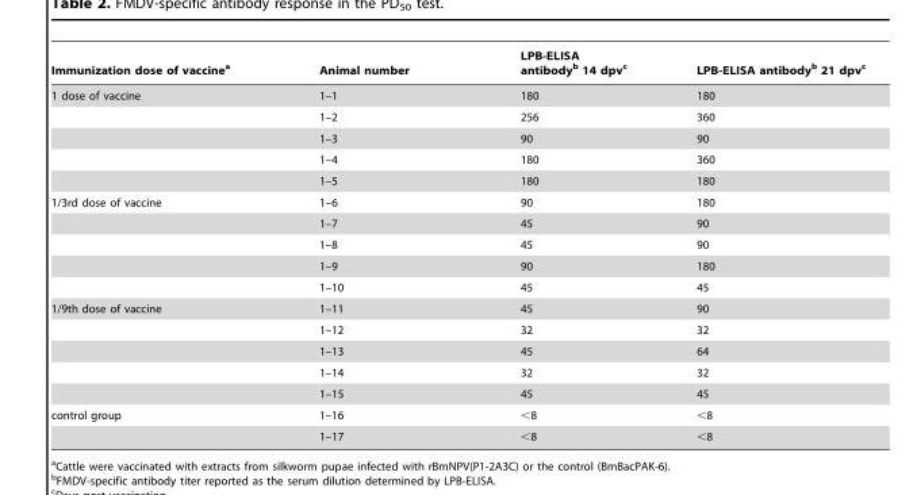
<table><thead><tr><td>Immunization dose of vaccine<sup>a</sup></td><td>Animal number</td><td>LPB-ELISA antibody<sup>b</sup> 14 dpv<sup>c</sup></td><td>LPB-ELISA antibody<sup>b</sup> 21 dpv<sup>c</sup></td></tr></thead><tbody><tr><td rowspan="5">1 dose of vaccine</td><td>1–1</td><td>180</td><td>180</td></tr><tr><td>1–2</td><td>256</td><td>360</td></tr><tr><td>1–3</td><td>90</td><td>90</td></tr><tr><td>1–4</td><td>180</td><td>360</td></tr><tr><td>1–5</td><td>180</td><td>180</td></tr><tr><td rowspan="5">1/3rd dose of vaccine</td><td>1–6</td><td>90</td><td>180</td></tr><tr><td>1–7</td><td>45</td><td>90</td></tr><tr><td>1–8</td><td>45</td><td>90</td></tr><tr><td>1–9</td><td>90</td><td>180</td></tr><tr><td>1–10</td><td>45</td><td>45</td></tr><tr><td rowspan="5">1/9th dose of vaccine</td><td>1–11</td><td>45</td><td>90</td></tr><tr><td>1–12</td><td>32</td><td>32</td></tr><tr><td>1–13</td><td>45</td><td>64</td></tr><tr><td>1–14</td><td>32</td><td>32</td></tr><tr><td>1–15</td><td>45</td><td>45</td></tr><tr><td rowspan="2">control group</td><td>1–16</td><td>&lt;8</td><td>&lt;8</td></tr><tr><td>1–17</td><td>&lt;8</td><td>&lt;8</td></tr></tbody></table>